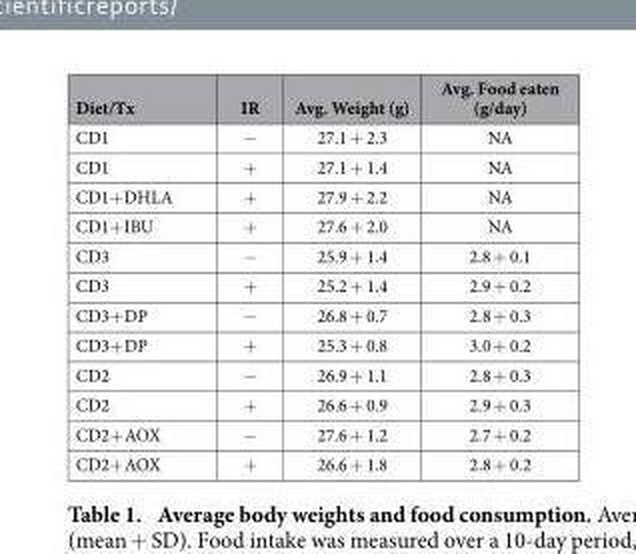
<table><thead><tr><td>Diet/Tx</td><td>IR</td><td>Avg. Weight (g)</td><td>Avg. Food eaten (g/day)</td></tr></thead><tbody><tr><td>CD1</td><td>−</td><td>27.1 + 2.3</td><td>NA</td></tr><tr><td>CD1</td><td>+</td><td>27.1 + 1.4</td><td>NA</td></tr><tr><td>CD1+ DHLA</td><td>+</td><td>27.9 + 2.2</td><td>NA</td></tr><tr><td>CD1+ IBU</td><td>+</td><td>27.6 + 2.0</td><td>NA</td></tr><tr><td>CD3</td><td>−</td><td>25.9 + 1.4</td><td>2.8 + 0.1</td></tr><tr><td>CD3</td><td>+</td><td>25.2 + 1.4</td><td>2.9 + 0.2</td></tr><tr><td>CD3+ DP</td><td>−</td><td>26.8 + 0.7</td><td>2.8 + 0.3</td></tr><tr><td>CD3+ DP</td><td>+</td><td>25.3 + 0.8</td><td>3.0 + 0.2</td></tr><tr><td>CD2</td><td>−</td><td>26.9 + 1.1</td><td>2.8 + 0.3</td></tr><tr><td>CD2</td><td>+</td><td>26.6 + 0.9</td><td>2.9 + 0.3</td></tr><tr><td>CD2+ AOX</td><td>−</td><td>27.6 + 1.2</td><td>2.7 + 0.2</td></tr><tr><td>CD2+ AOX</td><td>+</td><td>26.6 + 1.8</td><td>2.8 + 0.2</td></tr></tbody></table>